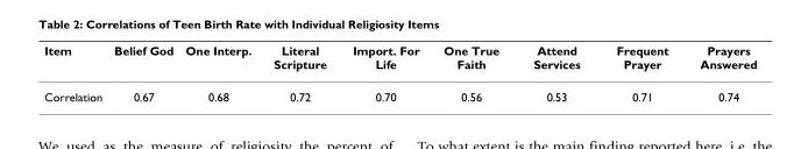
<table><thead><tr><td>Item</td><td>Belief God</td><td>One Interp.</td><td>Literal Scripture</td><td>Import. For Life</td><td>One True Faith</td><td>Attend Services</td><td>Frequent Prayer</td><td>Prayers Answered</td></tr></thead><tbody><tr><td>Correlation</td><td>0.67</td><td>0.68</td><td>0.72</td><td>0.70</td><td>0.56</td><td>0.53</td><td>0.71</td><td>0.74</td></tr></tbody></table>